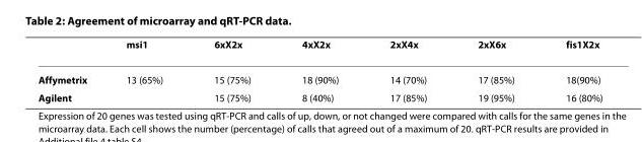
<table><thead><tr><td></td><td>msi1</td><td>6xX2x</td><td>4xX2x</td><td>2xX4x</td><td>2xX6x</td><td>fis1X2x</td></tr></thead><tbody><tr><td>Affymetrix</td><td>13 (65%)</td><td>15 (75%)</td><td>18 (90%)</td><td>14 (70%)</td><td>17 (85%)</td><td>18(90%)</td></tr><tr><td>Agilent</td><td></td><td>15 (75%)</td><td>8 (40%)</td><td>17 (85%)</td><td>19 (95%)</td><td>16 (80%)</td></tr></tbody></table>